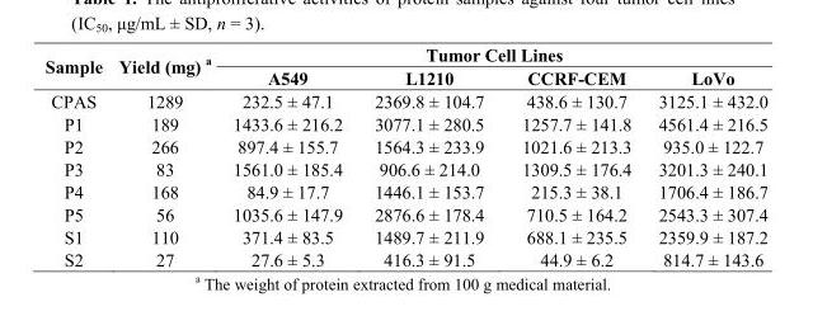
<table><thead><tr><td rowspan="2">Sample</td><td rowspan="2">Yield (mg) <sup>a</sup></td><td colspan="4">Tumor Cell Lines</td></tr><tr><td>A549</td><td>L1210</td><td>CCRF-CEM</td><td>LoVo</td></tr></thead><tbody><tr><td>CPAS</td><td>1289</td><td>232.5 ± 47.1</td><td>2369.8 ± 104.7</td><td>438.6 ± 130.7</td><td>3125.1 ± 432.0</td></tr><tr><td>P1</td><td>189</td><td>1433.6 ± 216.2</td><td>3077.1 ± 280.5</td><td>1257.7 ± 141.8</td><td>4561.4 ± 216.5</td></tr><tr><td>P2</td><td>266</td><td>897.4 ± 155.7</td><td>1564.3 ± 233.9</td><td>1021.6 ± 213.3</td><td>935.0 ± 122.7</td></tr><tr><td>P3</td><td>83</td><td>1561.0 ± 185.4</td><td>906.6 ± 214.0</td><td>1309.5 ± 176.4</td><td>3201.3 ± 240.1</td></tr><tr><td>P4</td><td>168</td><td>84.9 ± 17.7</td><td>1446.1 ± 153.7</td><td>215.3 ± 38.1</td><td>1706.4 ± 186.7</td></tr><tr><td>P5</td><td>56</td><td>1035.6 ± 147.9</td><td>2876.6 ± 178.4</td><td>710.5 ± 164.2</td><td>2543.3 ± 307.4</td></tr><tr><td>S1</td><td>110</td><td>371.4 ± 83.5</td><td>1489.7 ± 211.9</td><td>688.1 ± 235.5</td><td>2359.9 ± 187.2</td></tr><tr><td>S2</td><td>27</td><td>27.6 ± 5.3</td><td>416.3 ± 91.5</td><td>44.9 ± 6.2</td><td>814.7 ± 143.6</td></tr></tbody></table>